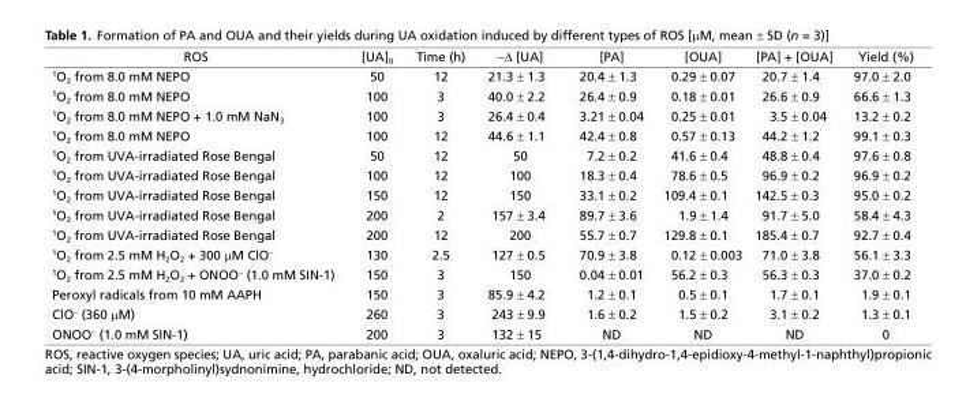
<table><thead><tr><td>ROS</td><td>[UA]<sub>0</sub></td><td>Time (h)</td><td>−Δ [UA]</td><td>[PA]</td><td>[OUA]</td><td>[PA] + [OUA]</td><td>Yield (%)</td></tr></thead><tbody><tr><td><sup>1</sup>O<sub>2</sub> from 8.0 mM NEPO</td><td>50</td><td>12</td><td>21.3 ± 1.3</td><td>20.4 ± 1.3</td><td>0.29 ± 0.07</td><td>20.7 ± 1.4</td><td>97.0 ± 2.0</td></tr><tr><td><sup>1</sup>O<sub>2</sub> from 8.0 mM NEPO</td><td>100</td><td>3</td><td>40.0 ± 2.2</td><td>26.4 ± 0.9</td><td>0.18 ± 0.01</td><td>26.6 ± 0.9</td><td>66.6 ± 1.3</td></tr><tr><td><sup>1</sup>O<sub>2</sub> from 8.0 mM NEPO + 1.0 mM NaN<sub>3</sub></td><td>100</td><td>3</td><td>26.4 ± 0.4</td><td>3.21 ± 0.04</td><td>0.25 ± 0.01</td><td>3.5 ± 0.04</td><td>13.2 ± 0.2</td></tr><tr><td><sup>1</sup>O<sub>2</sub> from 8.0 mM NEPO</td><td>100</td><td>12</td><td>44.6 ± 1.1</td><td>42.4 ± 0.8</td><td>0.57 ± 0.13</td><td>44.2 ± 1.2</td><td>99.1 ± 0.3</td></tr><tr><td><sup>1</sup>O<sub>2</sub> from UVA-irradiated Rose Bengal</td><td>50</td><td>12</td><td>50</td><td>7.2 ± 0.2</td><td>41.6 ± 0.4</td><td>48.8 ± 0.4</td><td>97.6 ± 0.8</td></tr><tr><td><sup>1</sup>O<sub>2</sub> from UVA-irradiated Rose Bengal</td><td>100</td><td>12</td><td>100</td><td>18.3 ± 0.4</td><td>78.6 ± 0.5</td><td>96.9 ± 0.2</td><td>96.9 ± 0.2</td></tr><tr><td><sup>1</sup>O<sub>2</sub> from UVA-irradiated Rose Bengal</td><td>150</td><td>12</td><td>150</td><td>33.1 ± 0.2</td><td>109.4 ± 0.1</td><td>142.5 ± 0.3</td><td>95.0 ± 0.2</td></tr><tr><td><sup>1</sup>O<sub>2</sub> from UVA-irradiated Rose Bengal</td><td>200</td><td>2</td><td>157 ± 3.4</td><td>89.7 ± 3.6</td><td>1.9 ± 1.4</td><td>91.7 ± 5.0</td><td>58.4 ± 4.3</td></tr><tr><td><sup>1</sup>O<sub>2</sub> from UVA-irradiated Rose Bengal</td><td>200</td><td>12</td><td>200</td><td>55.7 ± 0.7</td><td>129.8 ± 0.1</td><td>185.4 ± 0.7</td><td>92.7 ± 0.4</td></tr><tr><td><sup>1</sup>O<sub>2</sub> from 2.5 mM H<sub>2</sub>O<sub>2</sub> + 300 μM ClO<sup>−</sup></td><td>130</td><td>2.5</td><td>127 ± 0.5</td><td>70.9 ± 3.8</td><td>0.12 ± 0.003</td><td>71.0 ± 3.8</td><td>56.1 ± 3.3</td></tr><tr><td><sup>1</sup>O<sub>2</sub> from 2.5 mM H<sub>2</sub>O<sub>2</sub> + ONOO<sup>−</sup> (1.0 mM SIN-1)</td><td>150</td><td>3</td><td>150</td><td>0.04 ± 0.01</td><td>56.2 ± 0.3</td><td>56.3 ± 0.3</td><td>37.0 ± 0.2</td></tr><tr><td>Peroxyl radicals from 10 mM AAPH</td><td>150</td><td>3</td><td>85.9 ± 4.2</td><td>1.2 ± 0.1</td><td>0.5 ± 0.1</td><td>1.7 ± 0.1</td><td>1.9 ± 0.1</td></tr><tr><td>ClO<sup>−</sup> (360 μM)</td><td>260</td><td>3</td><td>243 ± 9.9</td><td>1.6 ± 0.2</td><td>1.5 ± 0.2</td><td>3.1 ± 0.2</td><td>1.3 ± 0.1</td></tr><tr><td>ONOO<sup>−</sup> (1.0 mM SIN-1)</td><td>200</td><td>3</td><td>132 ± 15</td><td>ND</td><td>ND</td><td>ND</td><td>0</td></tr></tbody></table>